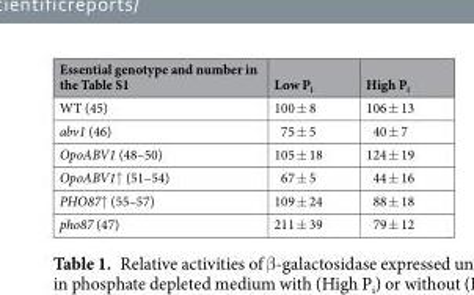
<table><thead><tr><td>Essential genotype and number in the Table S1</td><td>Low P<sub>i</sub></td><td>High P<sub>i</sub></td></tr></thead><tbody><tr><td>WT (45)</td><td>100 ± 8</td><td>106 ± 13</td></tr><tr><td>abv1 (46)</td><td>75 ± 5</td><td>40 ± 7</td></tr><tr><td>OpoABV1 (48–50)</td><td>105 ± 18</td><td>124 ± 19</td></tr><tr><td>OpoABV1↑ (51–54)</td><td>67 ± 5</td><td>44 ± 16</td></tr><tr><td>PHO87↑ (55–57)</td><td>109 ± 24</td><td>88 ± 18</td></tr><tr><td>pho87 (47)</td><td>211 ± 39</td><td>79 ± 12</td></tr></tbody></table>